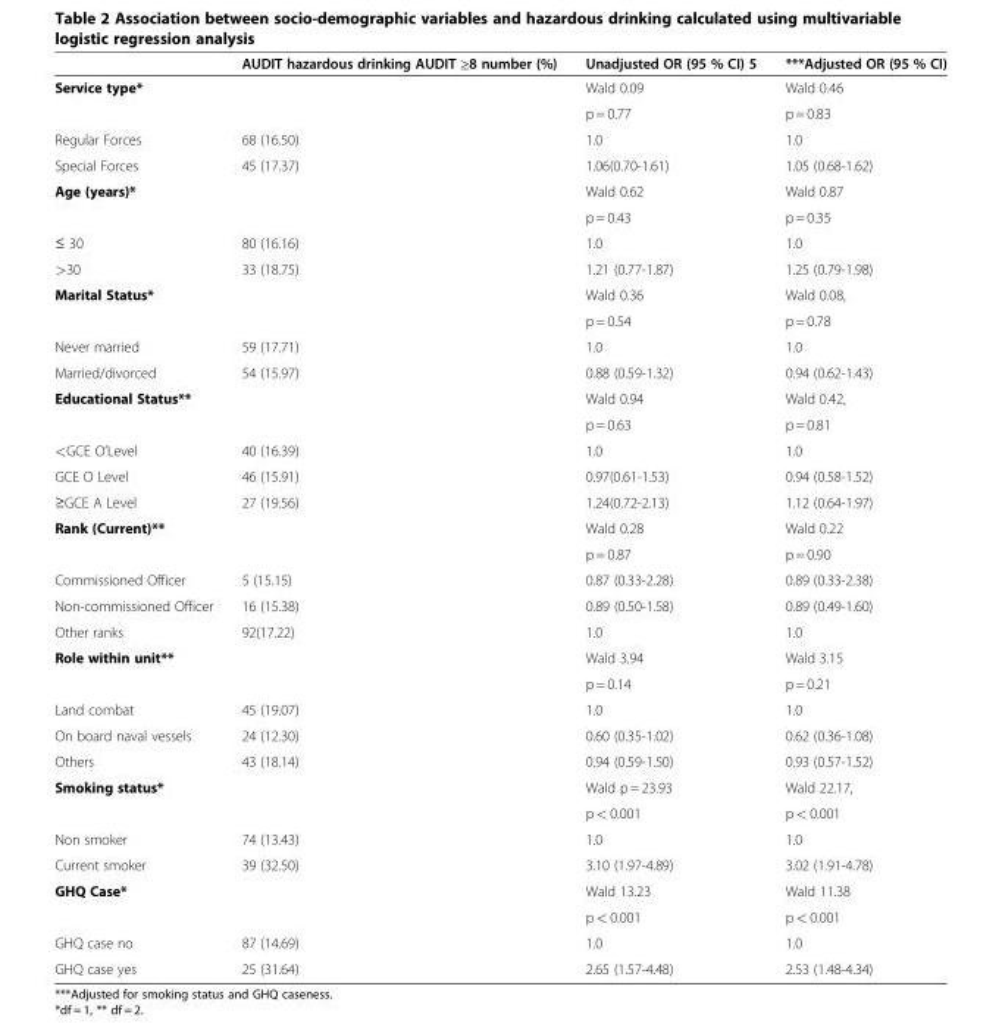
<table><thead><tr><td></td><td>AUDIT hazardous drinking AUDIT ≥8 number (%)</td><td>Unadjusted OR (95 % CI) 5</td><td>***Adjusted OR (95 % CI)</td></tr></thead><tbody><tr><td rowspan="2">Service type*</td><td rowspan="2"></td><td>Wald 0.09</td><td>Wald 0.46</td></tr><tr><td>p = 0.77</td><td>p = 0.83</td></tr><tr><td>Regular Forces</td><td>68 (16.50)</td><td>1.0</td><td>1.0</td></tr><tr><td>Special Forces</td><td>45 (17.37)</td><td>1.06(0.70-1.61)</td><td>1.05 (0.68-1.62)</td></tr><tr><td rowspan="2">Age (years)*</td><td rowspan="2"></td><td>Wald 0.62</td><td>Wald 0.87</td></tr><tr><td>p = 0.43</td><td>p = 0.35</td></tr><tr><td>≤ 30</td><td>80 (16.16)</td><td>1.0</td><td>1.0</td></tr><tr><td>&gt;30</td><td>33 (18.75)</td><td>1.21 (0.77-1.87)</td><td>1.25 (0.79-1.98)</td></tr><tr><td rowspan="2">Marital Status*</td><td rowspan="2"></td><td>Wald 0.36</td><td>Wald 0.08,</td></tr><tr><td>p = 0.54</td><td>p = 0.78</td></tr><tr><td>Never married</td><td>59 (17.71)</td><td>1.0</td><td>1.0</td></tr><tr><td>Married/divorced</td><td>54 (15.97)</td><td>0.88 (0.59-1.32)</td><td>0.94 (0.62-1.43)</td></tr><tr><td rowspan="2">Educational Status**</td><td rowspan="2"></td><td>Wald 0.94</td><td>Wald 0.42,</td></tr><tr><td>p = 0.63</td><td>p = 0.81</td></tr><tr><td>&lt;GCE O’Level</td><td>40 (16.39)</td><td>1.0</td><td>1.0</td></tr><tr><td>GCE O Level</td><td>46 (15.91)</td><td>0.97(0.61-1.53)</td><td>0.94 (0.58-1.52)</td></tr><tr><td>≥GCE A Level</td><td>27 (19.56)</td><td>1.24(0.72-2.13)</td><td>1.12 (0.64-1.97)</td></tr><tr><td rowspan="2">Rank (Current)**</td><td rowspan="2"></td><td>Wald 0.28</td><td>Wald 0.22</td></tr><tr><td>p = 0.87</td><td>p = 0.90</td></tr><tr><td>Commissioned Officer</td><td>5 (15.15)</td><td>0.87 (0.33-2.28)</td><td>0.89 (0.33-2.38)</td></tr><tr><td>Non-commissioned Officer</td><td>16 (15.38)</td><td>0.89 (0.50-1.58)</td><td>0.89 (0.49-1.60)</td></tr><tr><td>Other ranks</td><td>92(17.22)</td><td>1.0</td><td>1.0</td></tr><tr><td rowspan="2">Role within unit**</td><td rowspan="2"></td><td>Wald 3.94</td><td>Wald 3.15</td></tr><tr><td>p = 0.14</td><td>p = 0.21</td></tr><tr><td>Land combat</td><td>45 (19.07)</td><td>1.0</td><td>1.0</td></tr><tr><td>On board naval vessels</td><td>24 (12.30)</td><td>0.60 (0.35-1.02)</td><td>0.62 (0.36-1.08)</td></tr><tr><td>Others</td><td>43 (18.14)</td><td>0.94 (0.59-1.50)</td><td>0.93 (0.57-1.52)</td></tr><tr><td rowspan="2">Smoking status*</td><td rowspan="2"></td><td>Wald p = 23.93</td><td>Wald 22.17,</td></tr><tr><td>p &lt; 0.001</td><td>p &lt; 0.001</td></tr><tr><td>Non smoker</td><td>74 (13.43)</td><td>1.0</td><td>1.0</td></tr><tr><td>Current smoker</td><td>39 (32.50)</td><td>3.10 (1.97-4.89)</td><td>3.02 (1.91-4.78)</td></tr><tr><td rowspan="2">GHQ Case*</td><td rowspan="2"></td><td>Wald 13.23</td><td>Wald 11.38</td></tr><tr><td>p &lt; 0.001</td><td>p &lt; 0.001</td></tr><tr><td>GHQ case no</td><td>87 (14.69)</td><td>1.0</td><td>1.0</td></tr><tr><td>GHQ case yes</td><td>25 (31.64)</td><td>2.65 (1.57-4.48)</td><td>2.53 (1.48-4.34)</td></tr></tbody></table>